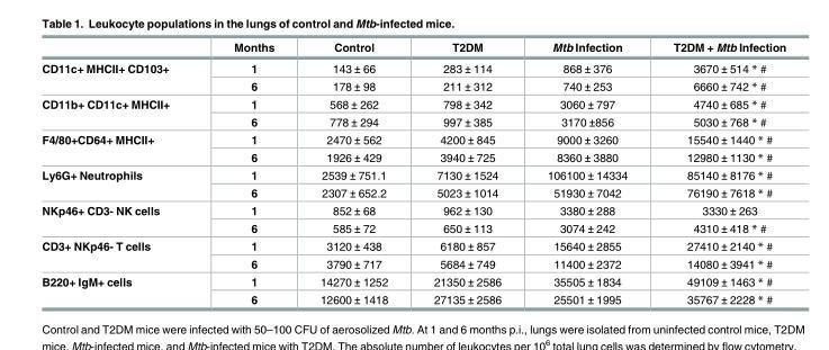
<table><thead><tr><td></td><td>Months</td><td>Control</td><td>T2DM</td><td>Mtb Infection</td><td>T2DM + Mtb Infection</td></tr></thead><tbody><tr><td rowspan="2">CD11c+ MHCII+ CD103+</td><td>1</td><td>143 ± 66</td><td>283 ± 114</td><td>868 ± 376</td><td>3670 ± 514 * #</td></tr><tr><td>6</td><td>178 ± 98</td><td>211 ± 312</td><td>740 ± 253</td><td>6660 ± 742 * #</td></tr><tr><td rowspan="2">CD11b+ CD11c+ MHCII+</td><td>1</td><td>568 ± 262</td><td>798 ± 342</td><td>3060 ± 797</td><td>4740 ± 685 * #</td></tr><tr><td>6</td><td>778 ± 294</td><td>997 ± 385</td><td>3170 ±856</td><td>5030 ± 768 * #</td></tr><tr><td rowspan="2">F4/80+CD64+ MHCII+</td><td>1</td><td>2470 ± 562</td><td>4200 ± 845</td><td>9000 ± 3260</td><td>15540 ± 1440 * #</td></tr><tr><td>6</td><td>1926 ± 429</td><td>3940 ± 725</td><td>8360 ± 3880</td><td>12980 ± 1130 * #</td></tr><tr><td rowspan="2">Ly6G+ Neutrophils</td><td>1</td><td>2539 ± 751.1</td><td>7130 ± 1524</td><td>106100 ± 14334</td><td>85140 ± 8176 * #</td></tr><tr><td>6</td><td>2307 ± 652.2</td><td>5023 ± 1014</td><td>51930 ± 7042</td><td>76190 ± 7618 * #</td></tr><tr><td rowspan="2">NKp46+ CD3- NK cells</td><td>1</td><td>852 ± 68</td><td>962 ± 130</td><td>3380 ± 288</td><td>3330 ± 263</td></tr><tr><td>6</td><td>585 ± 72</td><td>650 ± 113</td><td>3074 ± 242</td><td>4310 ± 418 * #</td></tr><tr><td rowspan="2">CD3+ NKp46- T cells</td><td>1</td><td>3120 ± 438</td><td>6180 ± 857</td><td>15640 ± 2855</td><td>27410 ± 2140 * #</td></tr><tr><td>6</td><td>3790 ± 717</td><td>5684 ± 749</td><td>11400 ± 2372</td><td>14080 ± 3941 * #</td></tr><tr><td rowspan="2">B220+ IgM+ cells</td><td>1</td><td>14270 ± 1252</td><td>21350 ± 2586</td><td>35505 ± 1834</td><td>49109 ± 1463 * #</td></tr><tr><td>6</td><td>12600 ± 1418</td><td>27135 ± 2586</td><td>25501 ± 1995</td><td>35767 ± 2228 * #</td></tr></tbody></table>